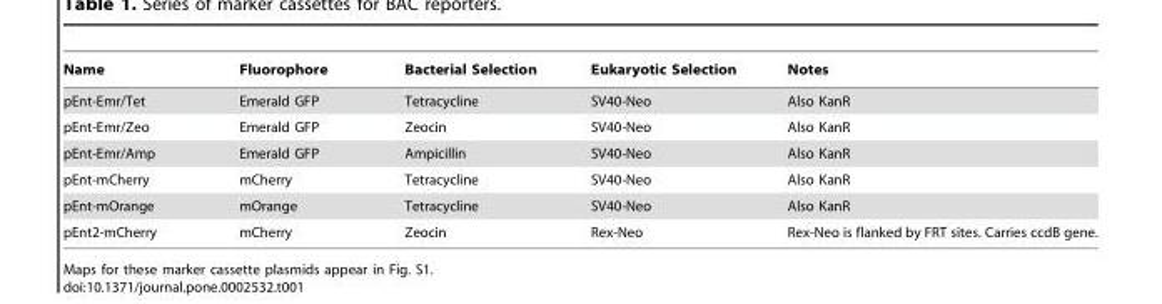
<table><thead><tr><td>Name</td><td>Fluorophore</td><td>Bacterial Selection</td><td>Eukaryotic Selection</td><td>Notes</td></tr></thead><tbody><tr><td>pEnt-Emr/Tet</td><td>Emerald GFP</td><td>Tetracycline</td><td>SV40-Neo</td><td>Also KanR</td></tr><tr><td>pEnt-Emr/Zeo</td><td>Emerald GFP</td><td>Zeocin</td><td>SV40-Neo</td><td>Also KanR</td></tr><tr><td>pEnt-Emr/Amp</td><td>Emerald GFP</td><td>Ampicillin</td><td>SV40-Neo</td><td>Also KanR</td></tr><tr><td>pEnt-mCherry</td><td>mCherry</td><td>Tetracycline</td><td>SV40-Neo</td><td>Also KanR</td></tr><tr><td>pEnt-mOrange</td><td>mOrange</td><td>Tetracycline</td><td>SV40-Neo</td><td>Also KanR</td></tr><tr><td>pEnt2-mCherry</td><td>mCherry</td><td>Zeocin</td><td>Rex-Neo</td><td>Rex-Neo is flanked by FRT sites. Carries ccdB gene.</td></tr></tbody></table>